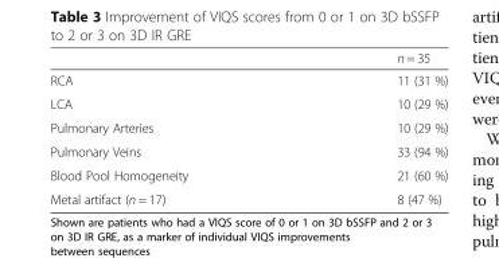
<table><thead><tr><td></td><td>n = 35</td></tr></thead><tbody><tr><td>RCA</td><td>11 (31 %)</td></tr><tr><td>LCA</td><td>10 (29 %)</td></tr><tr><td>Pulmonary Arteries</td><td>10 (29 %)</td></tr><tr><td>Pulmonary Veins</td><td>33 (94 %)</td></tr><tr><td>Blood Pool Homogeneity</td><td>21 (60 %)</td></tr><tr><td>Metal artifact (n = 17)</td><td>8 (47 %)</td></tr></tbody></table>